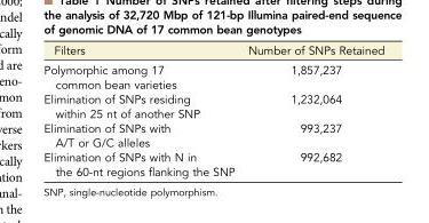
<table><thead><tr><td>Filters</td><td>Number of SNPs Retained</td></tr></thead><tbody><tr><td>Polymorphic among 17 common bean varieties</td><td>1,857,237</td></tr><tr><td>Elimination of SNPs residing within 25 nt of another SNP</td><td>1,232,064</td></tr><tr><td>Elimination of SNPs with A/T or G/C alleles</td><td>993,237</td></tr><tr><td>Elimination of SNPs with N in the 60-nt regions flanking the SNP</td><td>992,682</td></tr></tbody></table>